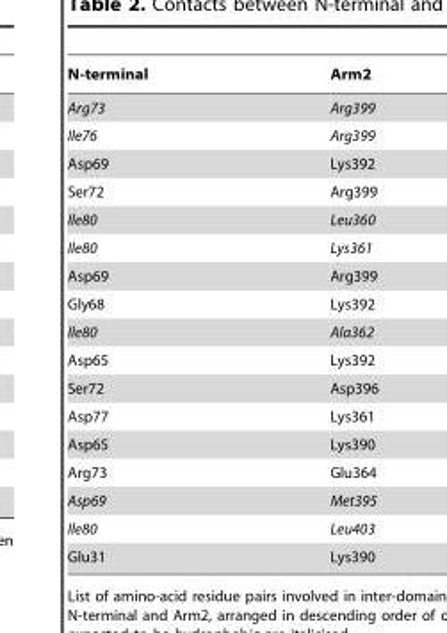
<table><thead><tr><td>N-terminal</td><td>Arm2</td></tr></thead><tbody><tr><td>Arg73</td><td>Arg399</td></tr><tr><td>Ile76</td><td>Arg399</td></tr><tr><td>Asp69</td><td>Lys392</td></tr><tr><td>Ser72</td><td>Arg399</td></tr><tr><td>Ile80</td><td>Leu360</td></tr><tr><td>Ile80</td><td>Lys361</td></tr><tr><td>Asp69</td><td>Arg399</td></tr><tr><td>Gly68</td><td>Lys392</td></tr><tr><td>Ile80</td><td>Ala362</td></tr><tr><td>Asp65</td><td>Lys392</td></tr><tr><td>Ser72</td><td>Asp396</td></tr><tr><td>Asp77</td><td>Lys361</td></tr><tr><td>Asp65</td><td>Lys390</td></tr><tr><td>Arg73</td><td>Glu364</td></tr><tr><td>Asp69</td><td>Met395</td></tr><tr><td>Ile80</td><td>Leu403</td></tr><tr><td>Glu31</td><td>Lys390</td></tr></tbody></table>